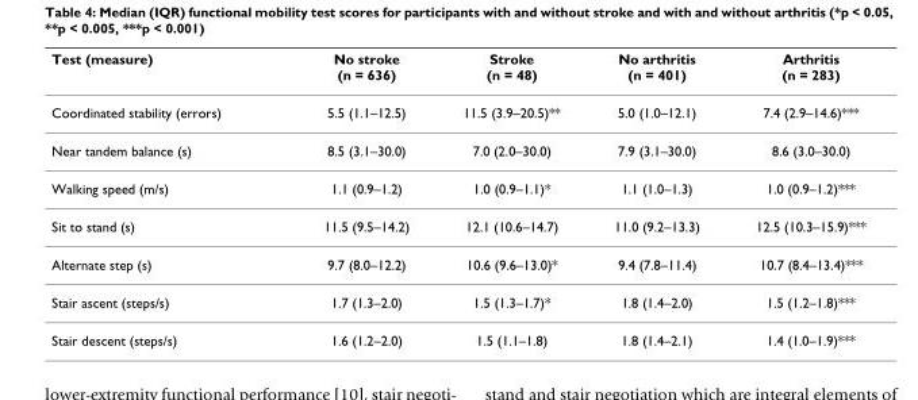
<table><thead><tr><td>Test (measure)</td><td>No stroke (n = 636)</td><td>Stroke (n = 48)</td><td>No arthritis (n = 401)</td><td>Arthritis (n = 283)</td></tr></thead><tbody><tr><td>Coordinated stability (errors)</td><td>5.5 (1.1–12.5)</td><td>11.5 (3.9–20.5)**</td><td>5.0 (1.0–12.1)</td><td>7.4 (2.9–14.6)***</td></tr><tr><td>Near tandem balance (s)</td><td>8.5 (3.1–30.0)</td><td>7.0 (2.0–30.0)</td><td>7.9 (3.1–30.0)</td><td>8.6 (3.0–30.0)</td></tr><tr><td>Walking speed (m/s)</td><td>1.1 (0.9–1.2)</td><td>1.0 (0.9–1.1)*</td><td>1.1 (1.0–1.3)</td><td>1.0 (0.9–1.2)***</td></tr><tr><td>Sit to stand (s)</td><td>11.5 (9.5–14.2)</td><td>12.1 (10.6–14.7)</td><td>11.0 (9.2–13.3)</td><td>12.5 (10.3–15.9)***</td></tr><tr><td>Alternate step (s)</td><td>9.7 (8.0–12.2)</td><td>10.6 (9.6–13.0)*</td><td>9.4 (7.8–11.4)</td><td>10.7 (8.4–13.4)***</td></tr><tr><td>Stair ascent (steps/s)</td><td>1.7 (1.3–2.0)</td><td>1.5 (1.3–1.7)*</td><td>1.8 (1.4–2.0)</td><td>1.5 (1.2–1.8)***</td></tr><tr><td>Stair descent (steps/s)</td><td>1.6 (1.2–2.0)</td><td>1.5 (1.1–1.8)</td><td>1.8 (1.4–2.1)</td><td>1.4 (1.0–1.9)***</td></tr></tbody></table>